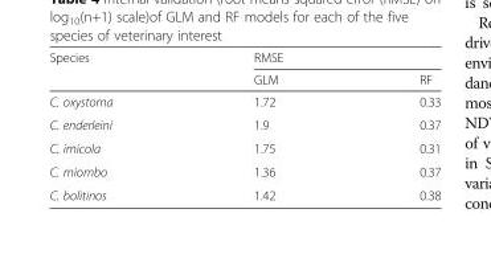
<table><thead><tr><td rowspan="2">Species</td><td colspan="2">RMSE</td></tr><tr><td>GLM</td><td>RF</td></tr></thead><tbody><tr><td>C. oxystoma</td><td>1.72</td><td>0.33</td></tr><tr><td>C. enderleini</td><td>1.9</td><td>0.37</td></tr><tr><td>C. imicola</td><td>1.75</td><td>0.31</td></tr><tr><td>C. miombo</td><td>1.36</td><td>0.37</td></tr><tr><td>C. bolitinos</td><td>1.42</td><td>0.38</td></tr></tbody></table>